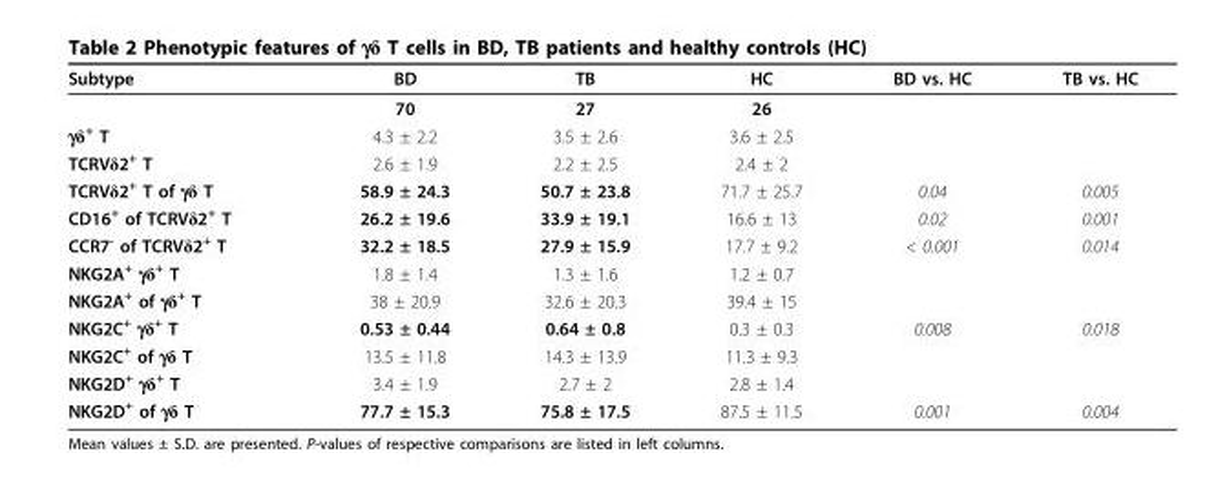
<table><thead><tr><td>Subtype</td><td>BD</td><td>TB</td><td>HC</td><td>BD vs. HC</td><td>TB vs. HC</td></tr></thead><tbody><tr><td></td><td>70</td><td>27</td><td>26</td><td></td><td></td></tr><tr><td>γδ<sup>+</sup> T</td><td>4.3 ± 2.2</td><td>3.5 ± 2.6</td><td>3.6 ± 2.5</td><td></td><td></td></tr><tr><td>TCRVδ2<sup>+</sup> T</td><td>2.6 ± 1.9</td><td>2.2 ± 2.5</td><td>2.4 ± 2</td><td></td><td></td></tr><tr><td>TCRVδ2<sup>+</sup> T of γδ T</td><td>58.9 ± 24.3</td><td>50.7 ± 23.8</td><td>71.7 ± 25.7</td><td>0.04</td><td>0.005</td></tr><tr><td>CD16<sup>+</sup> of TCRVδ2<sup>+</sup> T</td><td>26.2 ± 19.6</td><td>33.9 ± 19.1</td><td>16.6 ± 13</td><td>0.02</td><td>0.001</td></tr><tr><td>CCR7<sup>-</sup> of TCRVδ2<sup>+</sup> T</td><td>32.2 ± 18.5</td><td>27.9 ± 15.9</td><td>17.7 ± 9.2</td><td>&lt; 0.001</td><td>0.014</td></tr><tr><td>NKG2A<sup>+</sup> γδ<sup>+</sup> T</td><td>1.8 ± 1.4</td><td>1.3 ± 1.6</td><td>1.2 ± 0.7</td><td></td><td></td></tr><tr><td>NKG2A<sup>+</sup> of γδ<sup>+</sup> T</td><td>38 ± 20.9</td><td>32.6 ± 20.3</td><td>39.4 ± 15</td><td></td><td></td></tr><tr><td>NKG2C<sup>+</sup> γδ<sup>+</sup> T</td><td>0.53 ± 0.44</td><td>0.64 ± 0.8</td><td>0.3 ± 0.3</td><td>0.008</td><td>0.018</td></tr><tr><td>NKG2C<sup>+</sup> of γδ T</td><td>13.5 ± 11.8</td><td>14.3 ± 13.9</td><td>11.3 ± 9.3</td><td></td><td></td></tr><tr><td>NKG2D<sup>+</sup> γδ<sup>+</sup> T</td><td>3.4 ± 1.9</td><td>2.7 ± 2</td><td>2.8 ± 1.4</td><td></td><td></td></tr><tr><td>NKG2D<sup>+</sup> of γδ T</td><td>77.7 ± 15.3</td><td>75.8 ± 17.5</td><td>87.5 ± 11.5</td><td>0.001</td><td>0.004</td></tr></tbody></table>